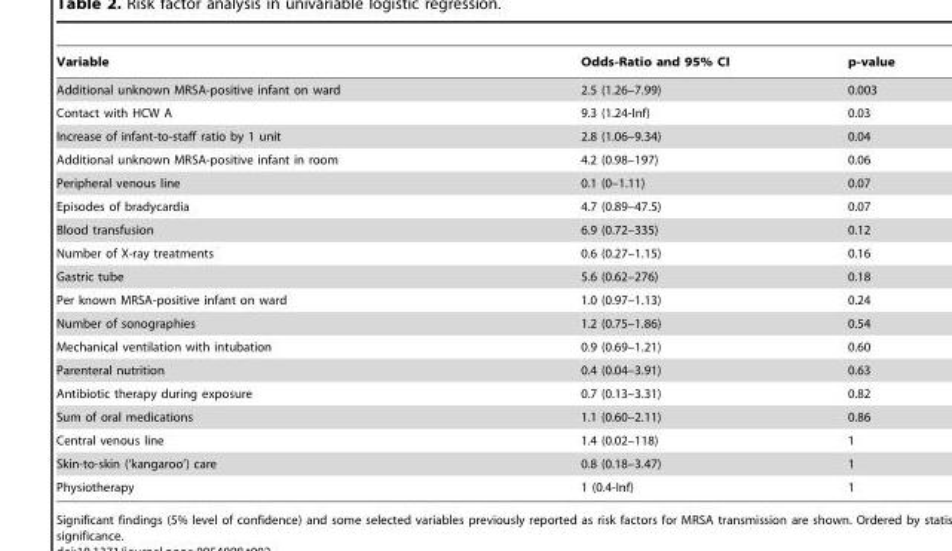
<table><thead><tr><td>Variable</td><td>Odds-Ratio and 95% CI</td><td>p-value</td></tr></thead><tbody><tr><td>Additional unknown MRSA-positive infant on ward</td><td>2.5 (1.26–7.99)</td><td>0.003</td></tr><tr><td>Contact with HCW A</td><td>9.3 (1.24-Inf)</td><td>0.03</td></tr><tr><td>Increase of infant-to-staff ratio by 1 unit</td><td>2.8 (1.06–9.34)</td><td>0.04</td></tr><tr><td>Additional unknown MRSA-positive infant in room</td><td>4.2 (0.98–197)</td><td>0.06</td></tr><tr><td>Peripheral venous line</td><td>0.1 (0–1.11)</td><td>0.07</td></tr><tr><td>Episodes of bradycardia</td><td>4.7 (0.89–47.5)</td><td>0.07</td></tr><tr><td>Blood transfusion</td><td>6.9 (0.72–335)</td><td>0.12</td></tr><tr><td>Number of X-ray treatments</td><td>0.6 (0.27–1.15)</td><td>0.16</td></tr><tr><td>Gastric tube</td><td>5.6 (0.62–276)</td><td>0.18</td></tr><tr><td>Per known MRSA-positive infant on ward</td><td>1.0 (0.97–1.13)</td><td>0.24</td></tr><tr><td>Number of sonographies</td><td>1.2 (0.75–1.86)</td><td>0.54</td></tr><tr><td>Mechanical ventilation with intubation</td><td>0.9 (0.69–1.21)</td><td>0.60</td></tr><tr><td>Parenteral nutrition</td><td>0.4 (0.04–3.91)</td><td>0.63</td></tr><tr><td>Antibiotic therapy during exposure</td><td>0.7 (0.13–3.31)</td><td>0.82</td></tr><tr><td>Sum of oral medications</td><td>1.1 (0.60–2.11)</td><td>0.86</td></tr><tr><td>Central venous line</td><td>1.4 (0.02–118)</td><td>1</td></tr><tr><td>Skin-to-skin (‘kangaroo’) care</td><td>0.8 (0.18–3.47)</td><td>1</td></tr><tr><td>Physiotherapy</td><td>1 (0.4-Inf)</td><td>1</td></tr></tbody></table>